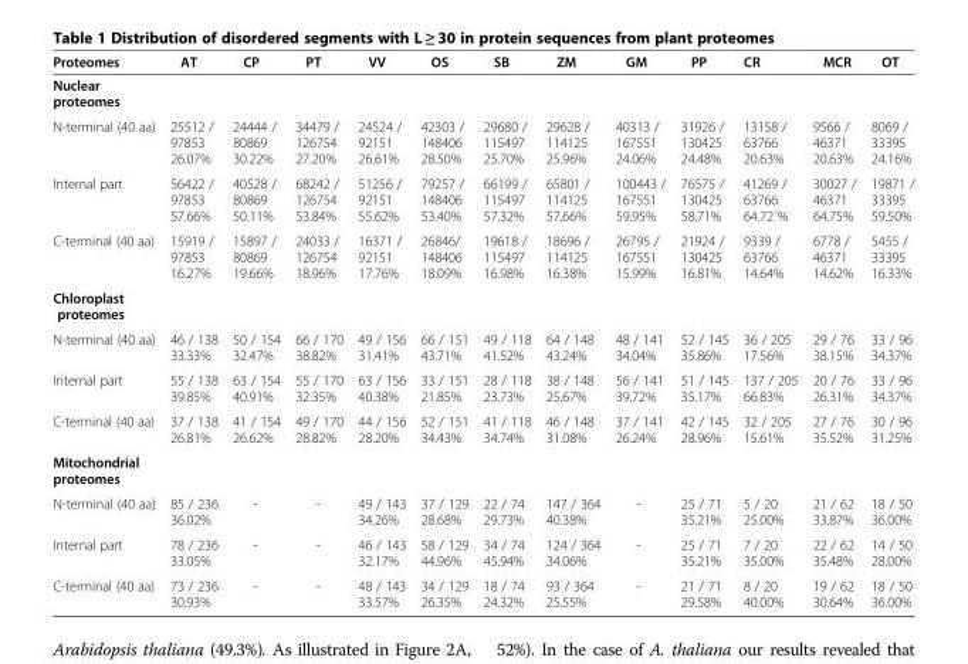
<table><thead><tr><td>Proteomes</td><td>AT</td><td>CP</td><td>PT</td><td>VV</td><td>OS</td><td>SB</td><td>ZM</td><td>GM</td><td>PP</td><td>CR</td><td>MCR</td><td>OT</td></tr></thead><tbody><tr><td colspan="13">Nuclear proteomes</td></tr><tr><td>N-terminal (40 aa)</td><td>25512 / 97853 26.07%</td><td>24444 / 80869 30.22%</td><td>34479 / 126754 27.20%</td><td>24524 / 92151 26.61%</td><td>42303 / 148406 28.50%</td><td>29680 / 115497 25.70%</td><td>29628 / 114125 25.96%</td><td>40313 / 167551 24.06%</td><td>31926 / 130425 24.48%</td><td>13158 / 63766 20.63%</td><td>9566 / 46371 20.63%</td><td>8069 / 33395 24.16%</td></tr><tr><td>Internal part</td><td>56422 / 97853 57.66%</td><td>40528 / 80869 50.11%</td><td>68242 / 126754 53.84%</td><td>51256 / 92151 55.62%</td><td>79257 / 148406 53.40%</td><td>66199 / 115497 57.32%</td><td>65801 / 114125 57.66%</td><td>100443 / 167551 59.95%</td><td>76575 / 130425 58.71%</td><td>41269 / 63766 64.72´%</td><td>30027 / 46371 64.75%</td><td>19871 / 33395 59.50%</td></tr><tr><td>C-terminal (40 aa)</td><td>15919 / 97853 16.27%</td><td>15897 / 80869 19.66%</td><td>24033 / 126754 18.96%</td><td>16371 / 92151 17.76%</td><td>26846/ 148406 18.09%</td><td>19618 / 115497 16.98%</td><td>18696 / 114125 16.38%</td><td>26795 / 167551 15.99%</td><td>21924 / 130425 16.81%</td><td>9339 / 63766 14.64%</td><td>6778 / 46371 14.62%</td><td>5455 / 33395 16.33%</td></tr><tr><td colspan="13">Chloroplast proteomes</td></tr><tr><td>N-terminal (40 aa)</td><td>46 / 138 33.33%</td><td>50 / 154 32.47%</td><td>66 / 170 38.82%</td><td>49 / 156 31.41%</td><td>66 / 151 43.71%</td><td>49 / 118 41.52%</td><td>64 / 148 43.24%</td><td>48 / 141 34.04%</td><td>52 / 145 35.86%</td><td>36 / 205 17.56%</td><td>29 / 76 38.15%</td><td>33 / 96 34.37%</td></tr><tr><td>Internal part</td><td>55 / 138 39.85%</td><td>63 / 154 40.91%</td><td>55 / 170 32.35%</td><td>63 / 156 40.38%</td><td>33 / 151 21.85%</td><td>28 / 118 23.73%</td><td>38 / 148 25.67%</td><td>56 / 141 39.72%</td><td>51 / 145 35.17%</td><td>137 / 205 66.83%</td><td>20 / 76 26.31%</td><td>33 / 96 34.37%</td></tr><tr><td>C-terminal (40 aa)</td><td>37 / 138 26.81%</td><td>41 / 154 26.62%</td><td>49 / 170 28.82%</td><td>44 / 156 28.20%</td><td>52 / 151 34.43%</td><td>41 / 118 34.74%</td><td>46 / 148 31.08%</td><td>37 / 141 26.24%</td><td>42 / 145 28.96%</td><td>32 / 205 15.61%</td><td>27 / 76 35.52%</td><td>30 / 96 31.25%</td></tr><tr><td colspan="13">Mitochondrial proteomes</td></tr><tr><td>N-terminal (40 aa)</td><td>85 / 236 36.02%</td><td>-</td><td>-</td><td>49 / 143 34.26%</td><td>37 / 129 28.68%</td><td>22 / 74 29.73%</td><td>147 / 364 40.38%</td><td>-</td><td>25 / 71 35.21%</td><td>5 / 20 25.00%</td><td>21 / 62 33.87%</td><td>18 / 50 36.00%</td></tr><tr><td>Internal part</td><td>78 / 236 33.05%</td><td>-</td><td>-</td><td>46 / 143 32.17%</td><td>58 / 129 44.96%</td><td>34 / 74 45.94%</td><td>124 / 364 34.06%</td><td>-</td><td>25 / 71 35.21%</td><td>7 / 20 35.00%</td><td>22 / 62 35.48%</td><td>14 / 50 28.00%</td></tr><tr><td>C-terminal (40 aa)</td><td>73 / 236 30.93%</td><td>-</td><td>-</td><td>48 / 143 33.57%</td><td>34 / 129 26.35%</td><td>18 / 74 24.32%</td><td>93 / 364 25.55%</td><td>-</td><td>21 / 71 29.58%</td><td>8 / 20 40.00%</td><td>19 / 62 30.64%</td><td>18 / 50 36.00%</td></tr></tbody></table>